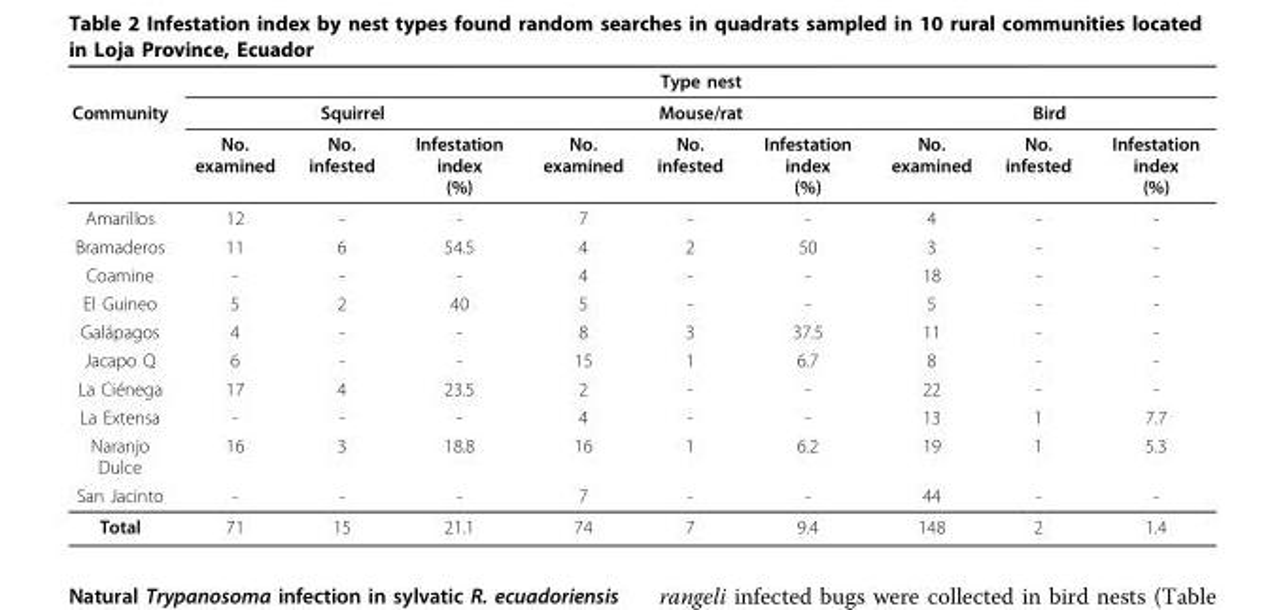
<table><thead><tr><td rowspan="3">Community</td><td colspan="9">Type nest</td></tr><tr><td colspan="3">Squirrel</td><td colspan="3">Mouse/rat</td><td colspan="3">Bird</td></tr><tr><td>No. examined</td><td>No. infested</td><td>Infestation index (%)</td><td>No. examined</td><td>No. infested</td><td>Infestation index (%)</td><td>No. examined</td><td>No. infested</td><td>Infestation index (%)</td></tr></thead><tbody><tr><td>Amarillos</td><td>12</td><td>-</td><td>-</td><td>7</td><td>-</td><td>-</td><td>4</td><td>-</td><td>-</td></tr><tr><td>Bramaderos</td><td>11</td><td>6</td><td>54.5</td><td>4</td><td>2</td><td>50</td><td>3</td><td>-</td><td>-</td></tr><tr><td>Coamine</td><td>-</td><td>-</td><td>-</td><td>4</td><td>-</td><td>-</td><td>18</td><td>-</td><td>-</td></tr><tr><td>El Guineo</td><td>5</td><td>2</td><td>40</td><td>5</td><td>-</td><td>-</td><td>5</td><td>-</td><td>-</td></tr><tr><td>Galápagos</td><td>4</td><td>-</td><td>-</td><td>8</td><td>3</td><td>37.5</td><td>11</td><td>-</td><td>-</td></tr><tr><td>Jacapo Q</td><td>6</td><td>-</td><td>-</td><td>15</td><td>1</td><td>6.7</td><td>8</td><td>-</td><td>-</td></tr><tr><td>La Ciénega</td><td>17</td><td>4</td><td>23.5</td><td>2</td><td>-</td><td>-</td><td>22</td><td>-</td><td>-</td></tr><tr><td>La Extensa</td><td>-</td><td>-</td><td>-</td><td>4</td><td>-</td><td>-</td><td>13</td><td>1</td><td>7.7</td></tr><tr><td>Naranjo Dulce</td><td>16</td><td>3</td><td>18.8</td><td>16</td><td>1</td><td>6.2</td><td>19</td><td>1</td><td>5.3</td></tr><tr><td>San Jacinto</td><td>-</td><td>-</td><td>-</td><td>7</td><td>-</td><td>-</td><td>44</td><td>-</td><td>-</td></tr><tr><td>Total</td><td>71</td><td>15</td><td>21.1</td><td>74</td><td>7</td><td>9.4</td><td>148</td><td>2</td><td>1.4</td></tr></tbody></table>